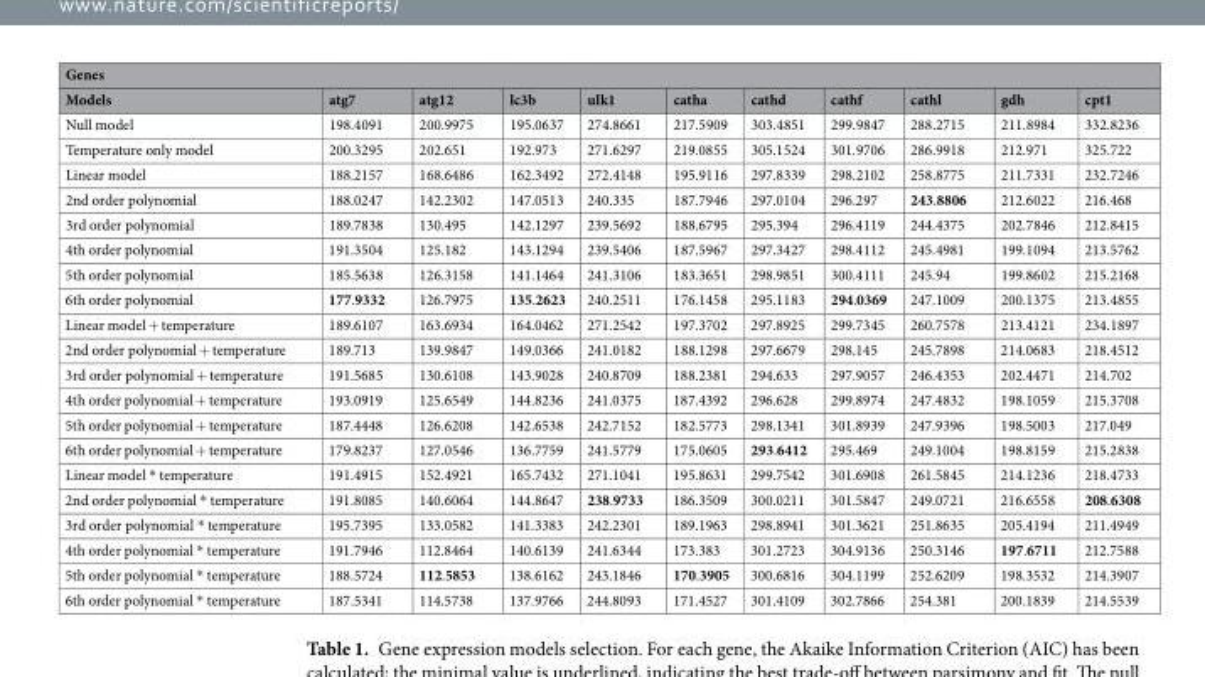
<table><thead><tr><td colspan="11">Genes</td></tr><tr><td>Models</td><td>atg7</td><td>atg12</td><td>lc3b</td><td>ulk1</td><td>catha</td><td>cathd</td><td>cathf</td><td>cathl</td><td>gdh</td><td>cpt1</td></tr></thead><tbody><tr><td>Null model</td><td>198.4091</td><td>200.9975</td><td>195.0637</td><td>274.8661</td><td>217.5909</td><td>303.4851</td><td>299.9847</td><td>288.2715</td><td>211.8984</td><td>332.8236</td></tr><tr><td>Temperature only model</td><td>200.3295</td><td>202.651</td><td>192.973</td><td>271.6297</td><td>219.0855</td><td>305.1524</td><td>301.9706</td><td>286.9918</td><td>212.971</td><td>325.722</td></tr><tr><td>Linear model</td><td>188.2157</td><td>168.6486</td><td>162.3492</td><td>272.4148</td><td>195.9116</td><td>297.8339</td><td>298.2102</td><td>258.8775</td><td>211.7331</td><td>232.7246</td></tr><tr><td>2nd order polynomial</td><td>188.0247</td><td>142.2302</td><td>147.0513</td><td>240.335</td><td>187.7946</td><td>297.0104</td><td>296.297</td><td>243.8806</td><td>212.6022</td><td>216.468</td></tr><tr><td>3rd order polynomial</td><td>189.7838</td><td>130.495</td><td>142.1297</td><td>239.5692</td><td>188.6795</td><td>295.394</td><td>296.4119</td><td>244.4375</td><td>202.7846</td><td>212.8415</td></tr><tr><td>4th order polynomial</td><td>191.3504</td><td>125.182</td><td>143.1294</td><td>239.5406</td><td>187.5967</td><td>297.3427</td><td>298.4112</td><td>245.4981</td><td>199.1094</td><td>213.5762</td></tr><tr><td>5th order polynomial</td><td>185.5638</td><td>126.3158</td><td>141.1464</td><td>241.3106</td><td>183.3651</td><td>298.9851</td><td>300.4111</td><td>245.94</td><td>199.8602</td><td>215.2168</td></tr><tr><td>6th order polynomial</td><td>177.9332</td><td>126.7975</td><td>135.2623</td><td>240.2511</td><td>176.1458</td><td>295.1183</td><td>294.0369</td><td>247.1009</td><td>200.1375</td><td>213.4855</td></tr><tr><td>Linear model + temperature</td><td>189.6107</td><td>163.6934</td><td>164.0462</td><td>271.2542</td><td>197.3702</td><td>297.8925</td><td>299.7345</td><td>260.7578</td><td>213.4121</td><td>234.1897</td></tr><tr><td>2nd order polynomial + temperature</td><td>189.713</td><td>139.9847</td><td>149.0366</td><td>241.0182</td><td>188.1298</td><td>297.6679</td><td>298.145</td><td>245.7898</td><td>214.0683</td><td>218.4512</td></tr><tr><td>3rd order polynomial + temperature</td><td>191.5685</td><td>130.6108</td><td>143.9028</td><td>240.8709</td><td>188.2381</td><td>294.633</td><td>297.9057</td><td>246.4353</td><td>202.4471</td><td>214.702</td></tr><tr><td>4th order polynomial + temperature</td><td>193.0919</td><td>125.6549</td><td>144.8236</td><td>241.0375</td><td>187.4392</td><td>296.628</td><td>299.8974</td><td>247.4832</td><td>198.1059</td><td>215.3708</td></tr><tr><td>5th order polynomial + temperature</td><td>187.4448</td><td>126.6208</td><td>142.6538</td><td>242.7152</td><td>182.5773</td><td>298.1341</td><td>301.8939</td><td>247.9396</td><td>198.5003</td><td>217.049</td></tr><tr><td>6th order polynomial + temperature</td><td>179.8237</td><td>127.0546</td><td>136.7759</td><td>241.5779</td><td>175.0605</td><td>293.6412</td><td>295.469</td><td>249.1004</td><td>198.8159</td><td>215.2838</td></tr><tr><td>Linear model * temperature</td><td>191.4915</td><td>152.4921</td><td>165.7432</td><td>271.1041</td><td>195.8631</td><td>299.7542</td><td>301.6908</td><td>261.5845</td><td>214.1236</td><td>218.4733</td></tr><tr><td>2nd order polynomial * temperature</td><td>191.8085</td><td>140.6064</td><td>144.8647</td><td>238.9733</td><td>186.3509</td><td>300.0211</td><td>301.5847</td><td>249.0721</td><td>216.6558</td><td>208.6308</td></tr><tr><td>3rd order polynomial * temperature</td><td>195.7395</td><td>133.0582</td><td>141.3383</td><td>242.2301</td><td>189.1963</td><td>298.8941</td><td>301.3621</td><td>251.8635</td><td>205.4194</td><td>211.4949</td></tr><tr><td>4th order polynomial * temperature</td><td>191.7946</td><td>112.8464</td><td>140.6139</td><td>241.6344</td><td>173.383</td><td>301.2723</td><td>304.9136</td><td>250.3146</td><td>197.6711</td><td>212.7588</td></tr><tr><td>5th order polynomial * temperature</td><td>188.5724</td><td>112.5853</td><td>138.6162</td><td>243.1846</td><td>170.3905</td><td>300.6816</td><td>304.1199</td><td>252.6209</td><td>198.3532</td><td>214.3907</td></tr><tr><td>6th order polynomial * temperature</td><td>187.5341</td><td>114.5738</td><td>137.9766</td><td>244.8093</td><td>171.4527</td><td>301.4109</td><td>302.7866</td><td>254.381</td><td>200.1839</td><td>214.5539</td></tr></tbody></table>